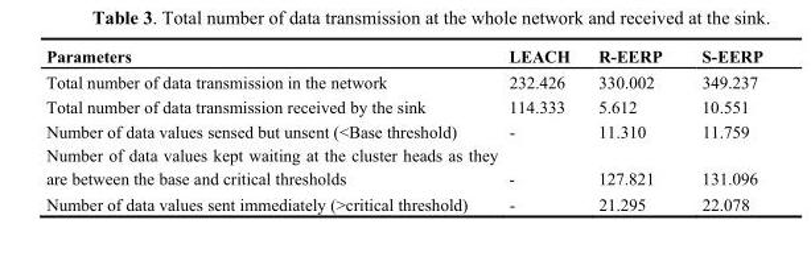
<table><thead><tr><td>Parameters</td><td>LEACH</td><td>R-EERP</td><td>S-EERP</td></tr></thead><tbody><tr><td>Total number of data transmission in the network</td><td>232.426</td><td>330.002</td><td>349.237</td></tr><tr><td>Total number of data transmission received by the sink</td><td>114.333</td><td>5.612</td><td>10.551</td></tr><tr><td>Number of data values sensed but unsent (&lt;Base threshold)</td><td>-</td><td>11.310</td><td>11.759</td></tr><tr><td>Number of data values kept waiting at the cluster heads as they are between the base and critical thresholds</td><td>-</td><td>127.821</td><td>131.096</td></tr><tr><td>Number of data values sent immediately (&gt;critical threshold)</td><td>-</td><td>21.295</td><td>22.078</td></tr></tbody></table>